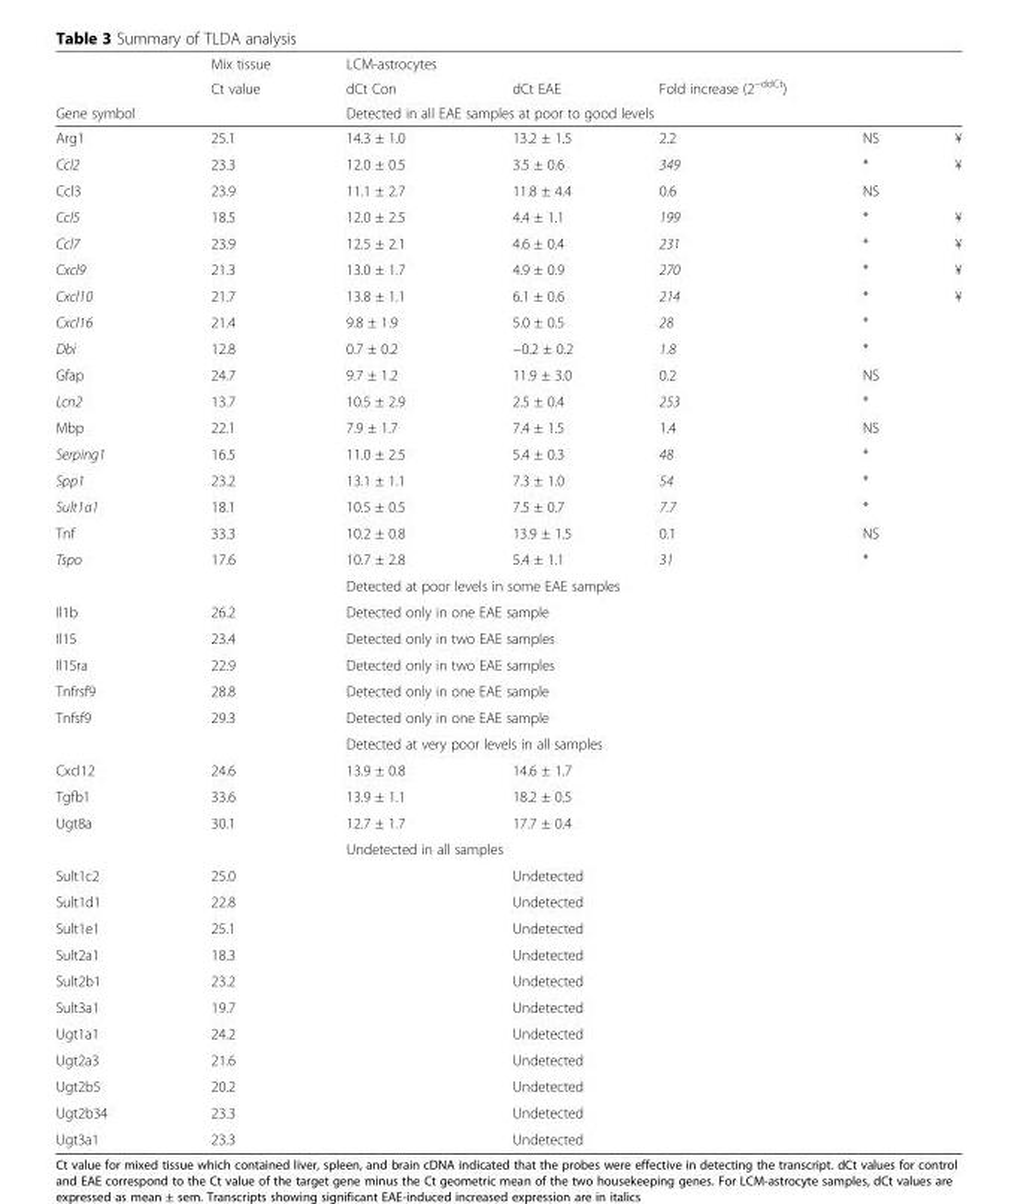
<table><thead><tr><td rowspan="3">Gene symbol</td><td rowspan="3">Mix tissue Ct value</td><td rowspan="2">LCM-astrocytes dCt Con</td><td rowspan="2">dCt EAE</td><td rowspan="2">Fold increase (2<sup>−ddCt</sup>)</td><td rowspan="2"></td><td rowspan="2"></td></tr><tr></tr><tr><td colspan="5">Detected in all EAE samples at poor to good levels</td></tr></thead><tbody><tr><td>Arg1</td><td>25.1</td><td>14.3 ± 1.0</td><td>13.2 ± 1.5</td><td>2.2</td><td>NS</td><td>¥</td></tr><tr><td>Ccl2</td><td>23.3</td><td>12.0 ± 0.5</td><td>3.5 ± 0.6</td><td>349</td><td>*</td><td>¥</td></tr><tr><td>Ccl3</td><td>23.9</td><td>11.1 ± 2.7</td><td>11.8 ± 4.4</td><td>0.6</td><td>NS</td><td></td></tr><tr><td>Ccl5</td><td>18.5</td><td>12.0 ± 2.5</td><td>4.4 ± 1.1</td><td>199</td><td>*</td><td>¥</td></tr><tr><td>Ccl7</td><td>23.9</td><td>12.5 ± 2.1</td><td>4.6 ± 0.4</td><td>231</td><td>*</td><td>¥</td></tr><tr><td>Cxcl9</td><td>21.3</td><td>13.0 ± 1.7</td><td>4.9 ± 0.9</td><td>270</td><td>*</td><td>¥</td></tr><tr><td>Cxcl10</td><td>21.7</td><td>13.8 ± 1.1</td><td>6.1 ± 0.6</td><td>214</td><td>*</td><td>¥</td></tr><tr><td>Cxcl16</td><td>21.4</td><td>9.8 ± 1.9</td><td>5.0 ± 0.5</td><td>28</td><td>*</td><td></td></tr><tr><td>Dbi</td><td>12.8</td><td>0.7 ± 0.2</td><td>−0.2 ± 0.2</td><td>1.8</td><td>*</td><td></td></tr><tr><td>Gfap</td><td>24.7</td><td>9.7 ± 1.2</td><td>11.9 ± 3.0</td><td>0.2</td><td>NS</td><td></td></tr><tr><td>Lcn2</td><td>13.7</td><td>10.5 ± 2.9</td><td>2.5 ± 0.4</td><td>253</td><td>*</td><td></td></tr><tr><td>Mbp</td><td>22.1</td><td>7.9 ± 1.7</td><td>7.4 ± 1.5</td><td>1.4</td><td>NS</td><td></td></tr><tr><td>Serping1</td><td>16.5</td><td>11.0 ± 2.5</td><td>5.4 ± 0.3</td><td>48</td><td>*</td><td></td></tr><tr><td>Spp1</td><td>23.2</td><td>13.1 ± 1.1</td><td>7.3 ± 1.0</td><td>54</td><td>*</td><td></td></tr><tr><td>Sult1a1</td><td>18.1</td><td>10.5 ± 0.5</td><td>7.5 ± 0.7</td><td>7.7</td><td>*</td><td></td></tr><tr><td>Tnf</td><td>33.3</td><td>10.2 ± 0.8</td><td>13.9 ± 1.5</td><td>0.1</td><td>NS</td><td></td></tr><tr><td rowspan="2">Tspo</td><td>17.6</td><td>10.7 ± 2.8</td><td>5.4 ± 1.1</td><td>31</td><td>*</td><td></td></tr><tr><td></td><td colspan="3">Detected at poor levels in some EAE samples</td><td></td><td></td></tr><tr><td>Il1b</td><td>26.2</td><td colspan="3">Detected only in one EAE sample</td><td></td><td></td></tr><tr><td>Il15</td><td>23.4</td><td colspan="3">Detected only in two EAE samples</td><td></td><td></td></tr><tr><td>Il15ra</td><td>22.9</td><td colspan="3">Detected only in two EAE samples</td><td></td><td></td></tr><tr><td>Tnfrsf9</td><td>28.8</td><td colspan="3">Detected only in one EAE sample</td><td></td><td></td></tr><tr><td rowspan="2">Tnfsf9</td><td>29.3</td><td colspan="3">Detected only in one EAE sample</td><td></td><td></td></tr><tr><td></td><td colspan="4">Detected at very poor levels in all samples</td><td></td></tr><tr><td>Cxcl12</td><td>24.6</td><td>13.9 ± 0.8</td><td>14.6 ± 1.7</td><td></td><td></td><td></td></tr><tr><td>Tgfb1</td><td>33.6</td><td>13.9 ± 1.1</td><td>18.2 ± 0.5</td><td></td><td></td><td></td></tr><tr><td rowspan="2">Ugt8a</td><td>30.1</td><td>12.7 ± 1.7</td><td>17.7 ± 0.4</td><td></td><td></td><td></td></tr><tr><td></td><td colspan="2">Undetected in all samples</td><td></td><td></td><td></td></tr><tr><td>Sult1c2</td><td>25.0</td><td></td><td>Undetected</td><td></td><td></td><td></td></tr><tr><td>Sult1d1</td><td>22.8</td><td></td><td>Undetected</td><td></td><td></td><td></td></tr><tr><td>Sult1e1</td><td>25.1</td><td></td><td>Undetected</td><td></td><td></td><td></td></tr><tr><td>Sult2a1</td><td>18.3</td><td></td><td>Undetected</td><td></td><td></td><td></td></tr><tr><td>Sult2b1</td><td>23.2</td><td></td><td>Undetected</td><td></td><td></td><td></td></tr><tr><td>Sult3a1</td><td>19.7</td><td></td><td>Undetected</td><td></td><td></td><td></td></tr><tr><td>Ugt1a1</td><td>24.2</td><td></td><td>Undetected</td><td></td><td></td><td></td></tr><tr><td>Ugt2a3</td><td>21.6</td><td></td><td>Undetected</td><td></td><td></td><td></td></tr><tr><td>Ugt2b5</td><td>20.2</td><td></td><td>Undetected</td><td></td><td></td><td></td></tr><tr><td>Ugt2b34</td><td>23.3</td><td></td><td>Undetected</td><td></td><td></td><td></td></tr><tr><td>Ugt3a1</td><td>23.3</td><td></td><td>Undetected</td><td></td><td></td><td></td></tr></tbody></table>